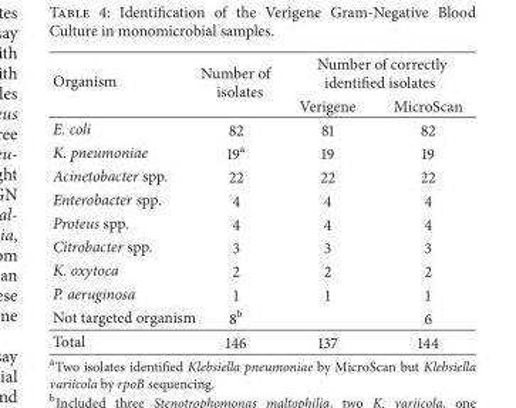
<table><thead><tr><td rowspan="2">Organism</td><td rowspan="2">Number of isolates</td><td colspan="2">Number of correctly identified isolates</td></tr><tr><td>Verigene</td><td>MicroScan</td></tr></thead><tbody><tr><td>E. coli</td><td>82</td><td>81</td><td>82</td></tr><tr><td>K. pneumoniae</td><td>19<sup>a</sup></td><td>19</td><td>19</td></tr><tr><td>Acinetobacter spp.</td><td>22</td><td>22</td><td>22</td></tr><tr><td>Enterobacter spp.</td><td>4</td><td>4</td><td>4</td></tr><tr><td>Proteus spp.</td><td>4</td><td>4</td><td>4</td></tr><tr><td>Citrobacter spp.</td><td>3</td><td>3</td><td>3</td></tr><tr><td>K. oxytoca</td><td>2</td><td>2</td><td>2</td></tr><tr><td>P. aeruginosa</td><td>1</td><td>1</td><td>1</td></tr><tr><td>Not targeted organism</td><td>8<sup>b</sup></td><td></td><td>6</td></tr><tr><td>Total</td><td>146</td><td>137</td><td>144</td></tr></tbody></table>